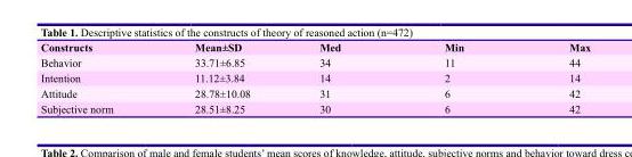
<table><thead><tr><td>Constructs</td><td>Mean±SD</td><td>Med</td><td>Min</td><td>Max</td></tr></thead><tbody><tr><td>Behavior</td><td>33.71±6.85</td><td>34</td><td>11</td><td>44</td></tr><tr><td>Intention</td><td>11.12±3.84</td><td>14</td><td>2</td><td>14</td></tr><tr><td>Attitude</td><td>28.78±10.08</td><td>31</td><td>6</td><td>42</td></tr><tr><td>Subjective norm</td><td>28.51±8.25</td><td>30</td><td>6</td><td>42</td></tr></tbody></table>